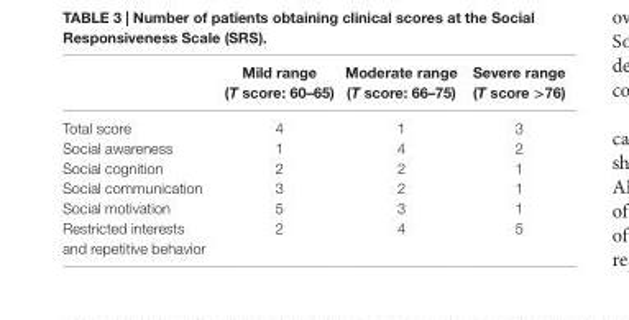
<table><thead><tr><td></td><td>Mild range (T score: 60–65)</td><td>Moderate range (T score: 66–75)</td><td>severe range (T score &gt;76)</td></tr></thead><tbody><tr><td>Total score</td><td>4</td><td>1</td><td>3</td></tr><tr><td>Social awareness</td><td>1</td><td>4</td><td>2</td></tr><tr><td>Social cognition</td><td>2</td><td>2</td><td>1</td></tr><tr><td>Social communication</td><td>3</td><td>2</td><td>1</td></tr><tr><td>Social motivation</td><td>5</td><td>3</td><td>1</td></tr><tr><td>Restricted interests and repetitive behavior</td><td>2</td><td>4</td><td>5</td></tr></tbody></table>